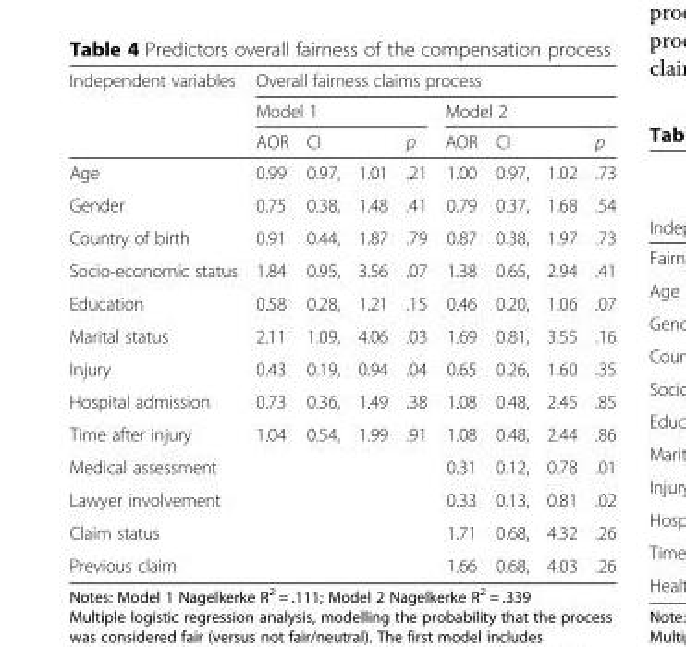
<table><thead><tr><td rowspan="4">Independent variables Age</td><td colspan="8">Overall fairness claims process</td></tr><tr><td colspan="4">Model 1</td><td colspan="4">Model 2</td></tr><tr><td rowspan="2">AOR 0.99</td><td colspan="2">CI</td><td rowspan="2">p .21</td><td rowspan="2">AOR 1.00</td><td rowspan="2">CI 0.97,</td><td rowspan="2">1.02</td><td rowspan="2">p .73</td></tr><tr><td>0.97,</td><td>1.01</td></tr></thead><tbody><tr><td>Gender</td><td>0.75</td><td>0.38,</td><td>1.48</td><td>.41</td><td>0.79</td><td>0.37,</td><td>1.68</td><td>.54</td></tr><tr><td>Country of birth</td><td>0.91</td><td>0.44,</td><td>1.87</td><td>.79</td><td>0.87</td><td>0.38,</td><td>1.97</td><td>.73</td></tr><tr><td>Socio-economic status</td><td>1.84</td><td>0.95,</td><td>3.56</td><td>.07</td><td>1.38</td><td>0.65,</td><td>2.94</td><td>.41</td></tr><tr><td>Education</td><td>0.58</td><td>0.28,</td><td>1.21</td><td>.15</td><td>0.46</td><td>0.20,</td><td>1.06</td><td>.07</td></tr><tr><td>Marital status</td><td>2.11</td><td>1.09,</td><td>4.06</td><td>.03</td><td>1.69</td><td>0.81,</td><td>3.55</td><td>.16</td></tr><tr><td>Injury</td><td>0.43</td><td>0.19,</td><td>0.94</td><td>.04</td><td>0.65</td><td>0.26,</td><td>1.60</td><td>.35</td></tr><tr><td>Hospital admission</td><td>0.73</td><td>0.36,</td><td>1.49</td><td>.38</td><td>1.08</td><td>0.48,</td><td>2.45</td><td>.85</td></tr><tr><td>Time after injury</td><td>1.04</td><td>0.54,</td><td>1.99</td><td>.91</td><td>1.08</td><td>0.48,</td><td>2.44</td><td>.86</td></tr><tr><td>Medical assessment</td><td></td><td></td><td></td><td></td><td>0.31</td><td>0.12,</td><td>0.78</td><td>.01</td></tr><tr><td>Lawyer involvement</td><td></td><td></td><td></td><td></td><td>0.33</td><td>0.13,</td><td>0.81</td><td>.02</td></tr><tr><td>Claim status</td><td></td><td></td><td></td><td></td><td>1.71</td><td>0.68,</td><td>4.32</td><td>.26</td></tr><tr><td>Previous claim</td><td></td><td></td><td></td><td></td><td>1.66</td><td>0.68,</td><td>4.03</td><td>.26</td></tr></tbody></table>